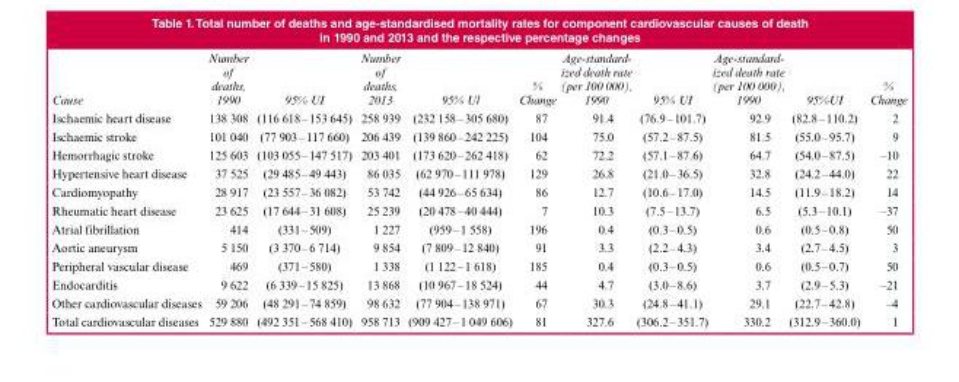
<table><thead><tr><td>Cause</td><td>Number of deaths, 1990</td><td>95% UI</td><td>Number of deaths, 2013</td><td>95% Ul</td><td>% Change</td><td>Age-standard- ized death rate (per 100 000), 1990</td><td>95% UI</td><td>Age-standard- ized death rate (per 100 000), 1990</td><td>95%UI</td><td>% Change</td></tr></thead><tbody><tr><td>Ischaemic heart disease</td><td>138 308</td><td>(116 618 – 153 645)</td><td>258 939</td><td>(232 158 – 305 680)</td><td>87</td><td>91.4</td><td>(76.9 – 101.7)</td><td>92.9</td><td>(82.8 – 110.2)</td><td>2</td></tr><tr><td>Ischaemic stroke</td><td>101 040</td><td>(77 903 – 117 660)</td><td>206 439</td><td>(139 860 – 242 225)</td><td>104</td><td>75.0</td><td>(57.2 – 87.5)</td><td>81.5</td><td>(55.0 – 95.7)</td><td>9</td></tr><tr><td>Hemorrhagic stroke</td><td>125 603</td><td>(103 055 – 147 517)</td><td>203 401</td><td>(173 620 – 262 418)</td><td>62</td><td>72.2</td><td>(57.1 – 87.6)</td><td>64.7</td><td>(54.0 – 87.5)</td><td>–10</td></tr><tr><td>Hypertensive heart disease</td><td>37 525</td><td>(29 485 – 49 443)</td><td>86 035</td><td>(62 970 – 111 978)</td><td>129</td><td>26.8</td><td>(21.0 – 36.5)</td><td>32.8</td><td>(24.2 – 44.0)</td><td>22</td></tr><tr><td>Cardiomyopathy</td><td>28 917</td><td>(23 557 – 36 082)</td><td>53 742</td><td>(44 926 – 65 634)</td><td>86</td><td>12.7</td><td>(10.6 – 17.0)</td><td>14.5</td><td>(11.9 – 18.2)</td><td>14</td></tr><tr><td>Rheumatic heart disease</td><td>23 625</td><td>(17 644 – 31 608)</td><td>25 239</td><td>(20 478 – 40 444)</td><td>7</td><td>10.3</td><td>(7.5 – 13.7)</td><td>6.5</td><td>(5.3 – 10.1)</td><td>–37</td></tr><tr><td>Atrial fibrillation</td><td>414</td><td>(331 – 509)</td><td>1 227</td><td>(959 – 1 558)</td><td>196</td><td>0.4</td><td>(0.3 – 0.5)</td><td>0.6</td><td>(0.5 – 0.8)</td><td>50</td></tr><tr><td>Aortic aneurysm</td><td>5 150</td><td>(3 370 – 6 714)</td><td>9 854</td><td>(7 809 – 12 840)</td><td>91</td><td>3.3</td><td>(2.2 – 4.3)</td><td>3.4</td><td>(2.7 – 4.5)</td><td>3</td></tr><tr><td>Peripheral vascular disease</td><td>469</td><td>(371 – 580)</td><td>1 338</td><td>(1 122 – 1 618)</td><td>185</td><td>0.4</td><td>(0.3 – 0.5)</td><td>0.6</td><td>(0.5 – 0.7)</td><td>50</td></tr><tr><td>Endocarditis</td><td>9 622</td><td>(6 339 – 15 825)</td><td>13 868</td><td>(10 967 – 18 524)</td><td>44</td><td>4.7</td><td>(3.0 – 8.6)</td><td>3.7</td><td>(2.9 – 5.3)</td><td>–21</td></tr><tr><td>Other cardiovascular diseases</td><td>59 206</td><td>(48 291 – 74 859)</td><td>98 632</td><td>(77 904 – 138 971)</td><td>67</td><td>30.3</td><td>(24.8 – 41.1)</td><td>29.1</td><td>(22.7 – 42.8)</td><td>–4</td></tr><tr><td>Total cardiovascular diseases</td><td>529 880</td><td>(492 351 – 568 410)</td><td>958 713</td><td>(909 427 – 1 049 606)</td><td>81</td><td>327.6</td><td>(306.2 – 351.7)</td><td>330.2</td><td>(312.9 – 360.0)</td><td>1</td></tr></tbody></table>